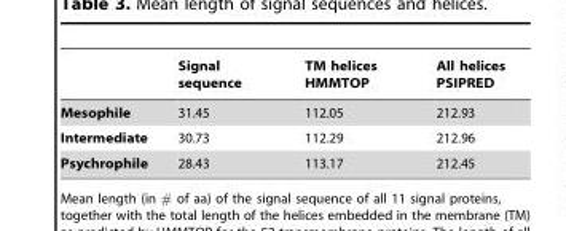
<table><thead><tr><td></td><td>Signal sequence</td><td>TM helices HMMTOP</td><td>All helices PSIPRED</td></tr></thead><tbody><tr><td>Mesophile</td><td>31.45</td><td>112.05</td><td>212.93</td></tr><tr><td>Intermediate</td><td>30.73</td><td>112.29</td><td>212.96</td></tr><tr><td>Psychrophile</td><td>28.43</td><td>113.17</td><td>212.45</td></tr></tbody></table>